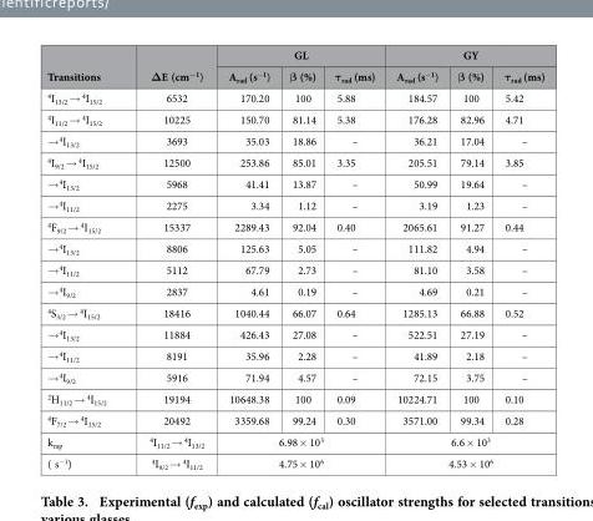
<table><thead><tr><td rowspan="2">Transitions</td><td rowspan="2">ΔE (cm<sup>−1</sup>)</td><td colspan="3">GL</td><td colspan="3">GY</td></tr><tr><td>A<sub>rad</sub> (s<sup>−1</sup>)</td><td>β (%)</td><td>τ<sub>rad</sub> (ms)</td><td>A<sub>rad</sub> (s<sup>−1</sup>)</td><td>β (%)</td><td>τ<sub>rad</sub> (ms)</td></tr></thead><tbody><tr><td><sup>4</sup>I<sub>13/2</sub> → <sup>4</sup>I<sub>15/2</sub></td><td>6532</td><td>170.20</td><td>100</td><td>5.88</td><td>184.57</td><td>100</td><td>5.42</td></tr><tr><td><sup>4</sup>I<sub>11/2</sub> → <sup>4</sup>I<sub>15/2</sub></td><td>10225</td><td>150.70</td><td>81.14</td><td>5.38</td><td>176.28</td><td>82.96</td><td>4.71</td></tr><tr><td>→ <sup>4</sup>I<sub>13/2</sub></td><td>3693</td><td>35.03</td><td>18.86</td><td>–</td><td>36.21</td><td>17.04</td><td>–</td></tr><tr><td><sup>4</sup>I<sub>9/2</sub> → <sup>4</sup>I<sub>15/2</sub></td><td>12500</td><td>253.86</td><td>85.01</td><td>3.35</td><td>205.51</td><td>79.14</td><td>3.85</td></tr><tr><td>→ <sup>4</sup>I<sub>13/2</sub></td><td>5968</td><td>41.41</td><td>13.87</td><td>–</td><td>50.99</td><td>19.64</td><td>–</td></tr><tr><td>→ <sup>4</sup>I<sub>11/2</sub></td><td>2275</td><td>3.34</td><td>1.12</td><td>–</td><td>3.19</td><td>1.23</td><td>–</td></tr><tr><td><sup>4</sup>F<sub>9/2</sub> → <sup>4</sup>I<sub>15/2</sub></td><td>15337</td><td>2289.43</td><td>92.04</td><td>0.40</td><td>2065.61</td><td>91.27</td><td>0.44</td></tr><tr><td>→ <sup>4</sup>I<sub>13/2</sub></td><td>8806</td><td>125.63</td><td>5.05</td><td>–</td><td>111.82</td><td>4.94</td><td>–</td></tr><tr><td>→ <sup>4</sup>I<sub>11/2</sub></td><td>5112</td><td>67.79</td><td>2.73</td><td>–</td><td>81.10</td><td>3.58</td><td>–</td></tr><tr><td>→ <sup>4</sup>I<sub>9/2</sub></td><td>2837</td><td>4.61</td><td>0.19</td><td>–</td><td>4.69</td><td>0.21</td><td>–</td></tr><tr><td><sup>4</sup>S<sub>3/2</sub> → <sup>4</sup>I<sub>15/2</sub></td><td>18416</td><td>1040.44</td><td>66.07</td><td>0.64</td><td>1285.13</td><td>66.88</td><td>0.52</td></tr><tr><td>→ <sup>4</sup>I<sub>13/2</sub></td><td>11884</td><td>426.43</td><td>27.08</td><td>–</td><td>522.51</td><td>27.19</td><td>–</td></tr><tr><td>→ <sup>4</sup>I<sub>11/2</sub></td><td>8191</td><td>35.96</td><td>2.28</td><td>–</td><td>41.89</td><td>2.18</td><td>–</td></tr><tr><td>→ <sup>4</sup>I<sub>9/2</sub></td><td>5916</td><td>71.94</td><td>4.57</td><td>–</td><td>72.15</td><td>3.75</td><td>–</td></tr><tr><td><sup>2</sup>H<sub>11/2</sub> → <sup>4</sup>I<sub>15/2</sub></td><td>19194</td><td>10648.38</td><td>100</td><td>0.09</td><td>10224.71</td><td>100</td><td>0.10</td></tr><tr><td><sup>4</sup>F<sub>7/2</sub> → <sup>4</sup>I<sub>15/2</sub></td><td>20492</td><td>3359.68</td><td>99.24</td><td>0.30</td><td>3571.00</td><td>99.34</td><td>0.28</td></tr><tr><td>k<sub>mp</sub></td><td><sup>4</sup>I<sub>11/2</sub> → <sup>4</sup>I<sub>13/2</sub></td><td colspan="3">6.98 × 10<sup>3</sup></td><td colspan="3">6.6 × 10<sup>3</sup></td></tr><tr><td>( s<sup>−1</sup>)</td><td><sup>4</sup>I<sub>9/2</sub> → <sup>4</sup>I<sub>11/2</sub></td><td colspan="3">4.75 × 10<sup>6</sup></td><td colspan="3">4.53 × 10<sup>6</sup></td></tr></tbody></table>